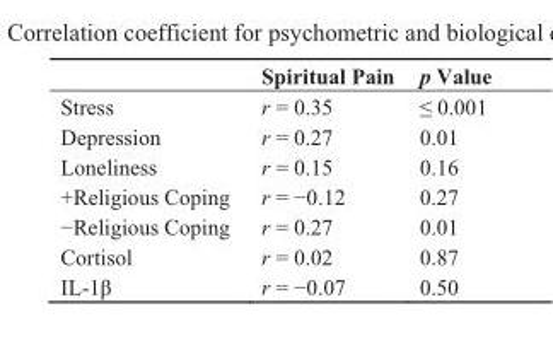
<table><thead><tr><td></td><td>Spiritual Pain</td><td>p Value</td></tr></thead><tbody><tr><td>Stress</td><td>r = 0.35</td><td>≤ 0.001</td></tr><tr><td>Depression</td><td>r = 0.27</td><td>0.01</td></tr><tr><td>Loneliness</td><td>r = 0.15</td><td>0.16</td></tr><tr><td>+Religious Coping</td><td>r = −0.12</td><td>0.27</td></tr><tr><td>−Religious Coping</td><td>r = 0.27</td><td>0.01</td></tr><tr><td>Cortisol</td><td>r = 0.02</td><td>0.87</td></tr><tr><td>IL-1β</td><td>r = −0.07</td><td>0.50</td></tr></tbody></table>